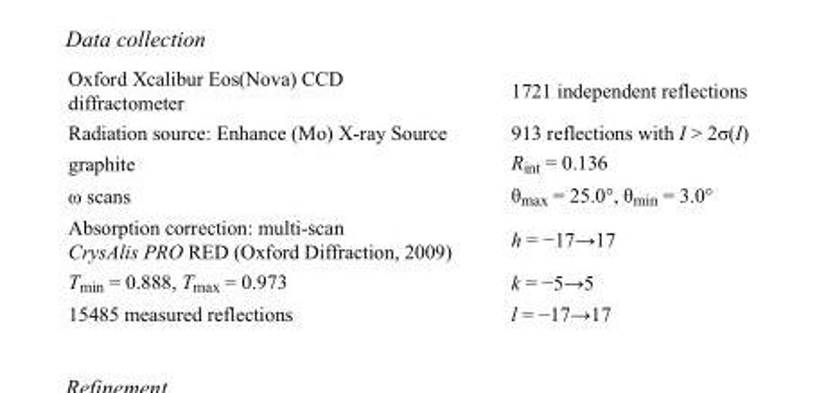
<table><tbody><tr><td>Oxford Xcalibur Eos(Nova) CCD diffractometer</td><td>1721 independent reflections</td></tr><tr><td>Radiation source: Enhance (Mo) X-ray Source</td><td>913 reflections with I &gt; 2σ(I)</td></tr><tr><td>graphite</td><td>R<sub>int</sub> = 0.136</td></tr><tr><td>ω scans</td><td>θ<sub>max</sub> = 25.0°, θ<sub>min</sub> = 3.0°</td></tr><tr><td>Absorption correction: multi-scan CrysAlis PRO RED (Oxford Diffraction, 2009)</td><td>h = −17→17</td></tr><tr><td>T<sub>min</sub> = 0.888, T<sub>max</sub> = 0.973</td><td>k = −5→5</td></tr><tr><td>15485 measured reflections</td><td>l = −17→17</td></tr></tbody></table>